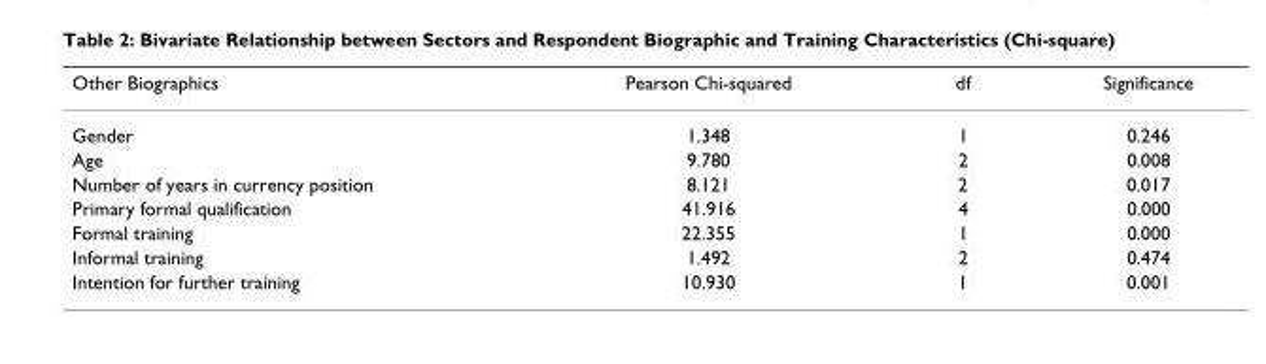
<table><thead><tr><td>Other Biographics</td><td>Pearson Chi-squared</td><td>df</td><td>Significance</td></tr></thead><tbody><tr><td>Gender</td><td>1.348</td><td>1</td><td>0.246</td></tr><tr><td>Age</td><td>9.780</td><td>2</td><td>0.008</td></tr><tr><td>Number of years in currency position</td><td>8.121</td><td>2</td><td>0.017</td></tr><tr><td>Primary formal qualification</td><td>41.916</td><td>4</td><td>0.000</td></tr><tr><td>Formal training</td><td>22.355</td><td>1</td><td>0.000</td></tr><tr><td>Informal training</td><td>1.492</td><td>2</td><td>0.474</td></tr><tr><td>Intention for further training</td><td>10.930</td><td>1</td><td>0.001</td></tr></tbody></table>